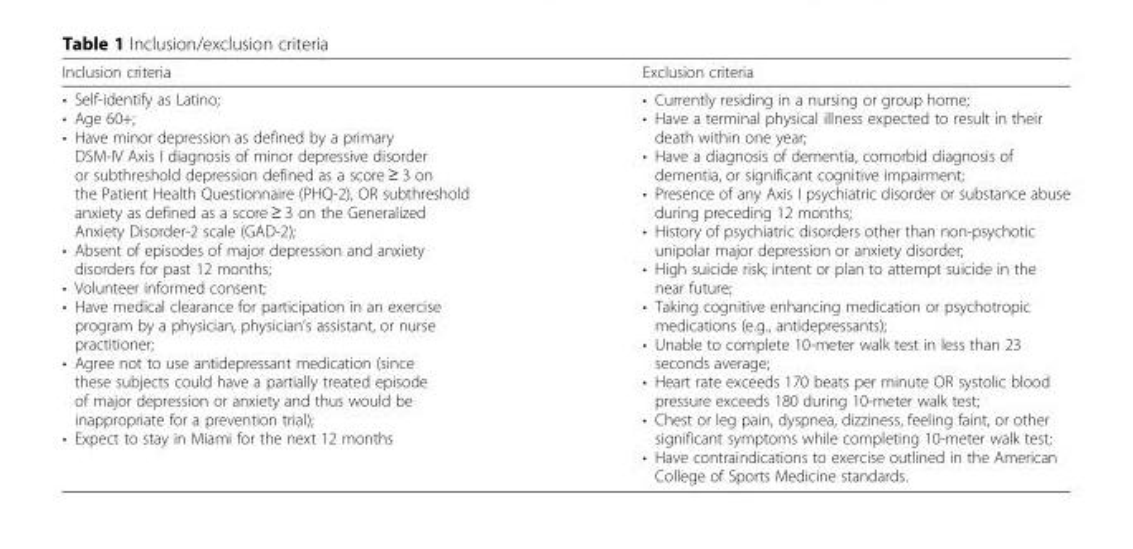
<table><thead><tr><td>Inclusion criteria</td><td>Exclusion criteria</td></tr></thead><tbody><tr><td>• Self-identify as Latino; • Age 60+; • Have minor depression as defined by a primary DSM-IV Axis I diagnosis of minor depressive disorder or subthreshold depression defined as a score ≥ 3 on the Patient Health Questionnaire (PHQ-2), OR subthreshold anxiety as defined as a score ≥ 3 on the Generalized Anxiety Disorder-2 scale (GAD-2); • Absent of episodes of major depression and anxiety disorders for past 12 months; • Volunteer informed consent; • Have medical clearance for participation in an exercise program by a physician, physician’s assistant, or nurse practitioner; • Agree not to use antidepressant medication (since these subjects could have a partially treated episode of major depression or anxiety and thus would be inappropriate for a prevention trial); • Expect to stay in Miami for the next 12 months</td><td>• Currently residing in a nursing or group home; • Have a terminal physical illness expected to result in their death within one year; • Have a diagnosis of dementia, comorbid diagnosis of dementia, or significant cognitive impairment; • Presence of any Axis I psychiatric disorder or substance abuse during preceding 12 months; • History of psychiatric disorders other than non-psychotic unipolar major depression or anxiety disorder; • High suicide risk; intent or plan to attempt suicide in the near future; • Taking cognitive enhancing medication or psychotropic medications (e.g., antidepressants); • Unable to complete 10-meter walk test in less than 23 seconds average; • Heart rate exceeds 170 beats per minute OR systolic blood pressure exceeds 180 during 10-meter walk test; • Chest or leg pain, dyspnea, dizziness, feeling faint, or other significant symptoms while completing 10-meter walk test; • Have contraindications to exercise outlined in the American College of Sports Medicine standards.</td></tr></tbody></table>